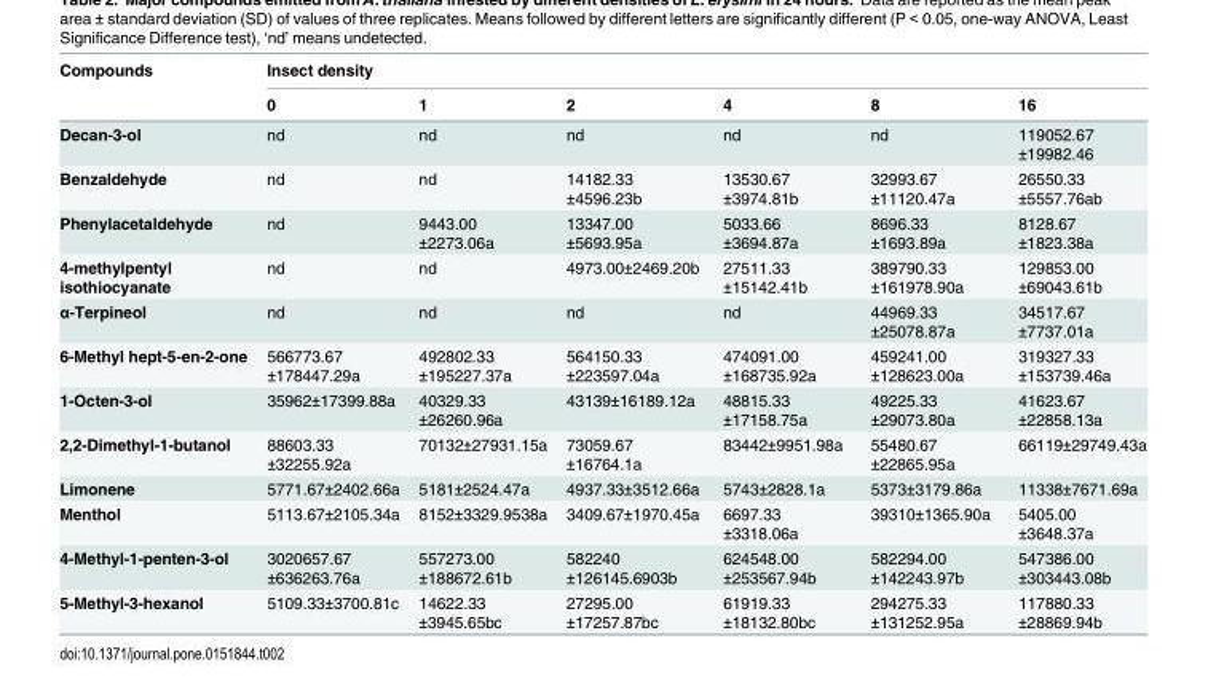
<table><thead><tr><td rowspan="2">Compounds</td><td colspan="6">Insect density</td></tr><tr><td>0</td><td>1</td><td>2</td><td>4</td><td>8</td><td>16</td></tr></thead><tbody><tr><td>Decan-3-ol</td><td>nd</td><td>nd</td><td>nd</td><td>nd</td><td>nd</td><td>119052.67 ±19982.46</td></tr><tr><td>Benzaldehyde</td><td>nd</td><td>nd</td><td>14182.33 ±4596.23b</td><td>13530.67 ±3974.81b</td><td>32993.67 ±11120.47a</td><td>26550.33 ±5557.76ab</td></tr><tr><td>Phenylacetaldehyde</td><td>nd</td><td>9443.00 ±2273.06a</td><td>13347.00 ±5693.95a</td><td>5033.66 ±3694.87a</td><td>8696.33 ±1693.89a</td><td>8128.67 ±1823.38a</td></tr><tr><td>4-methylpentyl isothiocyanate</td><td>nd</td><td>nd</td><td>4973.00±2469.20b</td><td>27511.33 ±15142.41b</td><td>389790.33 ±161978.90a</td><td>129853.00 ±69043.61b</td></tr><tr><td>α-Terpineol</td><td>nd</td><td>nd</td><td>nd</td><td>nd</td><td>44969.33 ±25078.87a</td><td>34517.67 ±7737.01a</td></tr><tr><td>6-Methyl hept-5-en-2-one</td><td>566773.67 ±178447.29a</td><td>492802.33 ±195227.37a</td><td>564150.33 ±223597.04a</td><td>474091.00 ±168735.92a</td><td>459241.00 ±128623.00a</td><td>319327.33 ±153739.46a</td></tr><tr><td>1-Octen-3-ol</td><td>35962±17399.88a</td><td>40329.33 ±26260.96a</td><td>43139±16189.12a</td><td>48815.33 ±17158.75a</td><td>49225.33 ±29073.80a</td><td>41623.67 ±22858.13a</td></tr><tr><td>2,2-Dimethyl-1-butanol</td><td>88603.33 ±32255.92a</td><td>70132±27931.15a</td><td>73059.67 ±16764.1a</td><td>83442±9951.98a</td><td>55480.67 ±22865.95a</td><td>66119±29749.43a</td></tr><tr><td>Limonene</td><td>5771.67±2402.66a</td><td>5181±2524.47a</td><td>4937.33±3512.66a</td><td>5743±2828.1a</td><td>5373±3179.86a</td><td>11338±7671.69a</td></tr><tr><td>Menthol</td><td>5113.67±2105.34a</td><td>8152±3329.9538a</td><td>3409.67±1970.45a</td><td>6697.33 ±3318.06a</td><td>39310±1365.90a</td><td>5405.00 ±3648.37a</td></tr><tr><td>4-Methyl-1-penten-3-ol</td><td>3020657.67 ±636263.76a</td><td>557273.00 ±188672.61b</td><td>582240 ±126145.6903b</td><td>624548.00 ±253567.94b</td><td>582294.00 ±142243.97b</td><td>547386.00 ±303443.08b</td></tr><tr><td>5-Methyl-3-hexanol</td><td>5109.33±3700.81c</td><td>14622.33 ±3945.65bc</td><td>27295.00 ±17257.87bc</td><td>61919.33 ±18132.80bc</td><td>294275.33 ±131252.95a</td><td>117880.33 ±28869.94b</td></tr></tbody></table>